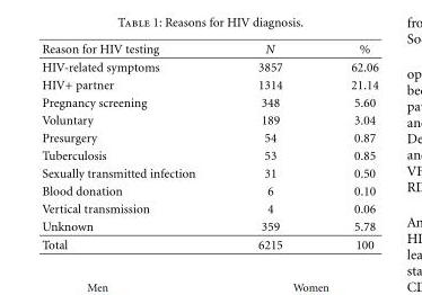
<table><thead><tr><td>Reason for HIV testing</td><td>N</td><td>%</td></tr></thead><tbody><tr><td>HIV-related symptoms</td><td>3857</td><td>62.06</td></tr><tr><td>HIV+ partner</td><td>1314</td><td>21.14</td></tr><tr><td>Pregnancy screening</td><td>348</td><td>5.60</td></tr><tr><td>Voluntary</td><td>189</td><td>3.04</td></tr><tr><td>Presurgery</td><td>54</td><td>0.87</td></tr><tr><td>Tuberculosis</td><td>53</td><td>0.85</td></tr><tr><td>Sexually transmitted infection</td><td>31</td><td>0.50</td></tr><tr><td>Blood donation</td><td>6</td><td>0.10</td></tr><tr><td>Vertical transmission</td><td>4</td><td>0.06</td></tr><tr><td>Unknown</td><td>359</td><td>5.78</td></tr><tr><td>Total</td><td>6215</td><td>100</td></tr></tbody></table>